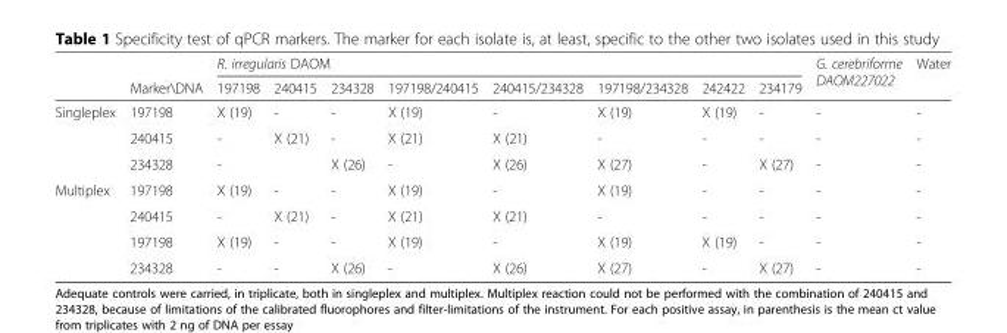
<table><thead><tr><td rowspan="2"></td><td rowspan="2">Marker\DNA</td><td colspan="8">R. irregularis DAOM</td><td rowspan="2">G. cerebriforme DAOM227022</td><td rowspan="2">Water</td></tr><tr><td>197198</td><td>240415</td><td>234328</td><td>197198/240415</td><td>240415/234328</td><td>197198/234328</td><td>242422</td><td>234179</td></tr></thead><tbody><tr><td rowspan="3">Singleplex</td><td>197198</td><td>X (19)</td><td>-</td><td>-</td><td>X (19)</td><td>-</td><td>X (19)</td><td>X (19)</td><td>-</td><td>-</td><td>-</td></tr><tr><td>240415</td><td>-</td><td>X (21)</td><td>-</td><td>X (21)</td><td>X (21)</td><td>-</td><td>-</td><td>-</td><td>-</td><td>-</td></tr><tr><td>234328</td><td>-</td><td></td><td>X (26)</td><td>-</td><td>X (26)</td><td>X (27)</td><td>-</td><td>X (27)</td><td>-</td><td>-</td></tr><tr><td rowspan="4">Multiplex</td><td>197198</td><td>X (19)</td><td>-</td><td>-</td><td>X (19)</td><td>-</td><td>X (19)</td><td>-</td><td>-</td><td>-</td><td>-</td></tr><tr><td>240415</td><td>-</td><td>X (21)</td><td>-</td><td>X (21)</td><td>X (21)</td><td>-</td><td>-</td><td>-</td><td>-</td><td>-</td></tr><tr><td>197198</td><td>X (19)</td><td>-</td><td>-</td><td>X (19)</td><td>-</td><td>X (19)</td><td>X (19)</td><td>-</td><td>-</td><td>-</td></tr><tr><td>234328</td><td>-</td><td>-</td><td>X (26)</td><td>-</td><td>X (26)</td><td>X (27)</td><td>-</td><td>X (27)</td><td>-</td><td>-</td></tr></tbody></table>